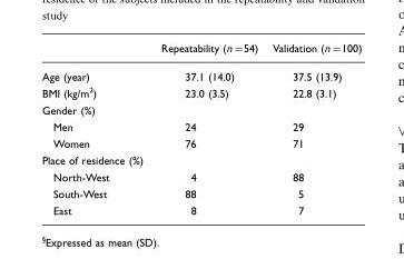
<table><thead><tr><td></td><td>Repeatability (n=54)</td><td>Validation (n=100)</td></tr></thead><tbody><tr><td>Age (year)</td><td>37.1 (14.0)</td><td>37.5 (13.9)</td></tr><tr><td>BMI (kg/m<sup>2</sup>)</td><td>23.0 (3.5)</td><td>22.8 (3.1)</td></tr><tr><td colspan="3">Gender (%)</td></tr><tr><td>Men</td><td>24</td><td>29</td></tr><tr><td>Women</td><td>76</td><td>71</td></tr><tr><td colspan="3">Place of residence (%)</td></tr><tr><td>North-West</td><td>4</td><td>88</td></tr><tr><td>South-West</td><td>88</td><td>5</td></tr><tr><td>East</td><td>8</td><td>7</td></tr></tbody></table>